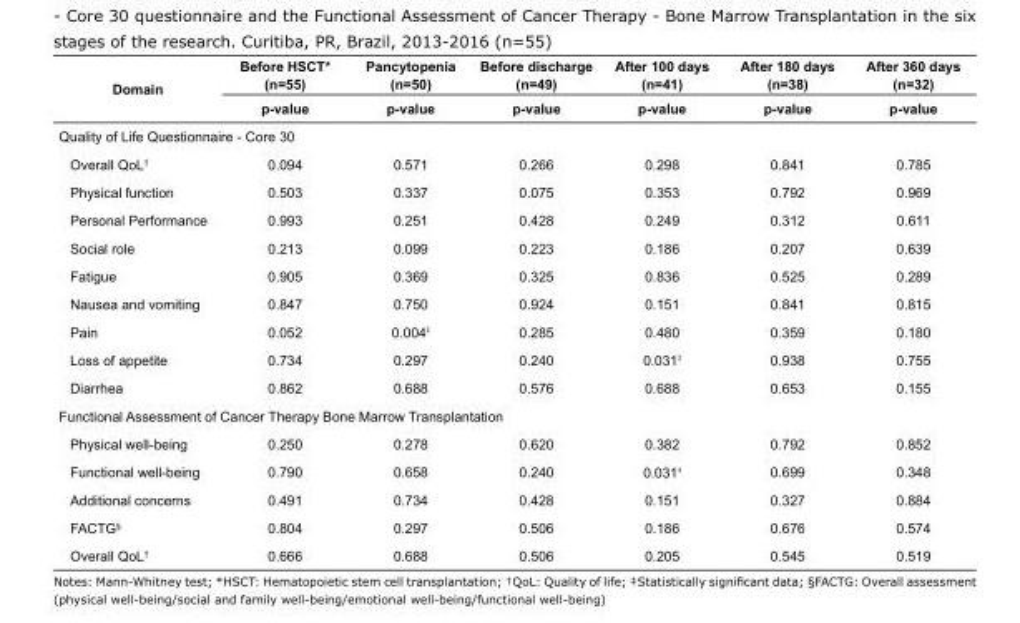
<table><tbody><tr><td rowspan="2">Domain</td><td>Before HSCT* (n=55)</td><td>Pancytopenia (n=50)</td><td>Before discharge (n=49)</td><td>After 100 days (n=41)</td><td>After 180 days (n=38)</td><td>After 360 days (n=32)</td></tr><tr><td>p-value</td><td>p-value</td><td>p-value</td><td>p-value</td><td>p-value</td><td>p-value</td></tr><tr><td colspan="7">Quality of Life Questionnaire - Core 30</td></tr><tr><td>Overall QoL<sup>†</sup></td><td>0.094</td><td>0.571</td><td>0.266</td><td>0.298</td><td>0.841</td><td>0.785</td></tr><tr><td>Physical function</td><td>0.503</td><td>0.337</td><td>0.075</td><td>0.353</td><td>0.792</td><td>0.969</td></tr><tr><td>Personal Performance</td><td>0.993</td><td>0.251</td><td>0.428</td><td>0.249</td><td>0.312</td><td>0.611</td></tr><tr><td>Social role</td><td>0.213</td><td>0.099</td><td>0.223</td><td>0.186</td><td>0.207</td><td>0.639</td></tr><tr><td>Fatigue</td><td>0.905</td><td>0.369</td><td>0.325</td><td>0.836</td><td>0.525</td><td>0.289</td></tr><tr><td>Nausea and vomiting</td><td>0.847</td><td>0.750</td><td>0.924</td><td>0.151</td><td>0.841</td><td>0.815</td></tr><tr><td>Pain</td><td>0.052</td><td>0.004<sup>‡</sup></td><td>0.285</td><td>0.480</td><td>0.359</td><td>0.180</td></tr><tr><td>Loss of appetite</td><td>0.734</td><td>0.297</td><td>0.240</td><td>0.031<sup>‡</sup></td><td>0.938</td><td>0.755</td></tr><tr><td>Diarrhea</td><td>0.862</td><td>0.688</td><td>0.576</td><td>0.688</td><td>0.653</td><td>0.155</td></tr><tr><td colspan="7">Functional Assessment of Cancer Therapy Bone Marrow Transplantation</td></tr><tr><td>Physical well-being</td><td>0.250</td><td>0.278</td><td>0.620</td><td>0.382</td><td>0.792</td><td>0.852</td></tr><tr><td>Functional well-being</td><td>0.790</td><td>0.658</td><td>0.240</td><td>0.031<sup>‡</sup></td><td>0.699</td><td>0.348</td></tr><tr><td>Additional concerns</td><td>0.491</td><td>0.734</td><td>0.428</td><td>0.151</td><td>0.327</td><td>0.884</td></tr><tr><td>FACTG<sup>§</sup></td><td>0.804</td><td>0.297</td><td>0.506</td><td>0.186</td><td>0.676</td><td>0.574</td></tr><tr><td>Overall QoL<sup>†</sup></td><td>0.666</td><td>0.688</td><td>0.506</td><td>0.205</td><td>0.545</td><td>0.519</td></tr></tbody></table>